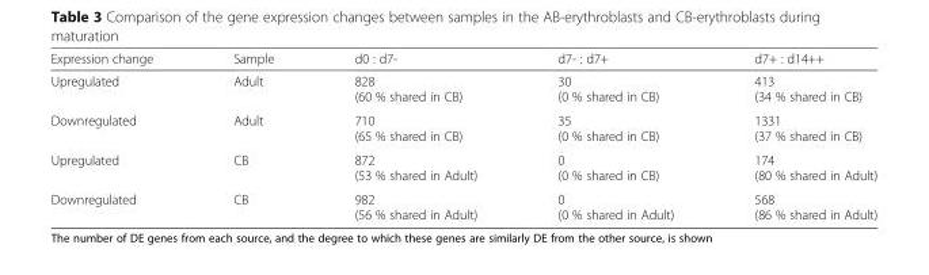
<table><thead><tr><td>Expression change</td><td>Sample</td><td>d0 : d7-</td><td>d7- : d7+</td><td>d7+ : d14++</td></tr></thead><tbody><tr><td>Upregulated</td><td>Adult</td><td>828 (60 % shared in CB)</td><td>30 (0 % shared in CB)</td><td>413 (34 % shared in CB)</td></tr><tr><td>Downregulated</td><td>Adult</td><td>710 (65 % shared in CB)</td><td>35 (0 % shared in CB)</td><td>1331 (37 % shared in CB)</td></tr><tr><td>Upregulated</td><td>CB</td><td>872 (53 % shared in Adult)</td><td>0 (0 % shared in CB)</td><td>174 (80 % shared in Adult)</td></tr><tr><td>Downregulated</td><td>CB</td><td>982 (56 % shared in Adult)</td><td>0 (0 % shared in Adult)</td><td>568 (86 % shared in Adult)</td></tr></tbody></table>